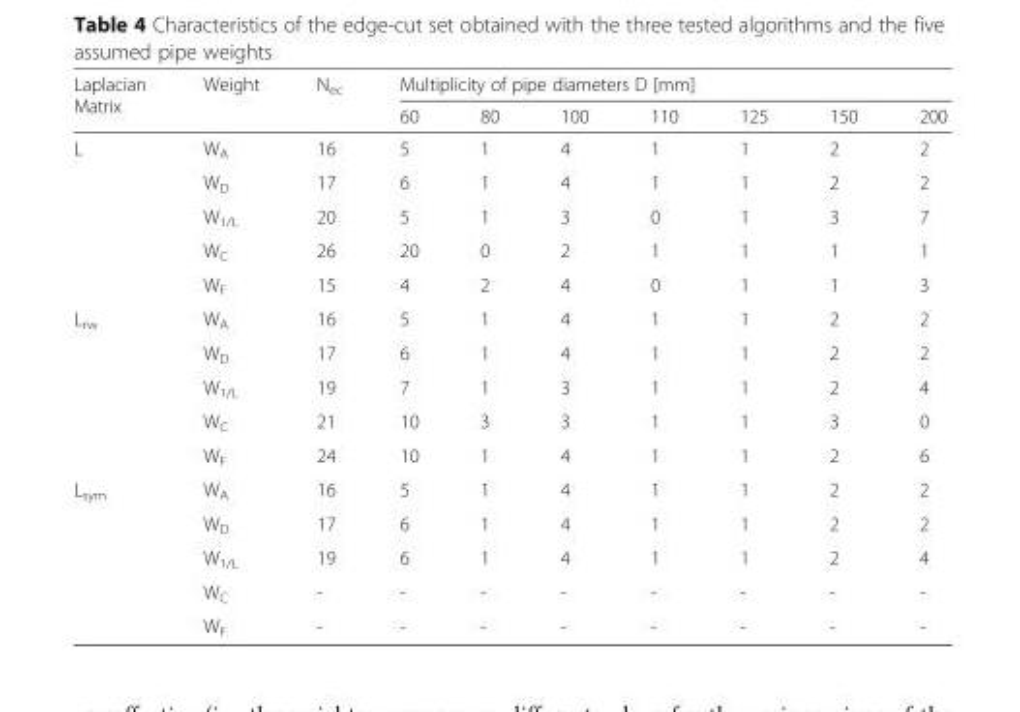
<table><thead><tr><td rowspan="2">Laplacian Matrix</td><td rowspan="2">Weight</td><td rowspan="2">N<sub>ec</sub></td><td colspan="7">Multiplicity of pipe diameters D [mm]</td></tr><tr><td>60</td><td>80</td><td>100</td><td>110</td><td>125</td><td>150</td><td>200</td></tr></thead><tbody><tr><td rowspan="5">L</td><td>W<sub>A</sub></td><td>16</td><td>5</td><td>1</td><td>4</td><td>1</td><td>1</td><td>2</td><td>2</td></tr><tr><td>W<sub>D</sub></td><td>17</td><td>6</td><td>1</td><td>4</td><td>1</td><td>1</td><td>2</td><td>2</td></tr><tr><td>W<sub>1/L</sub></td><td>20</td><td>5</td><td>1</td><td>3</td><td>0</td><td>1</td><td>3</td><td>7</td></tr><tr><td>W<sub>C</sub></td><td>26</td><td>20</td><td>0</td><td>2</td><td>1</td><td>1</td><td>1</td><td>1</td></tr><tr><td>W<sub>F</sub></td><td>15</td><td>4</td><td>2</td><td>4</td><td>0</td><td>1</td><td>1</td><td>3</td></tr><tr><td rowspan="5">L<sub>rw</sub></td><td>W<sub>A</sub></td><td>16</td><td>5</td><td>1</td><td>4</td><td>1</td><td>1</td><td>2</td><td>2</td></tr><tr><td>W<sub>D</sub></td><td>17</td><td>6</td><td>1</td><td>4</td><td>1</td><td>1</td><td>2</td><td>2</td></tr><tr><td>W<sub>1/L</sub></td><td>19</td><td>7</td><td>1</td><td>3</td><td>1</td><td>1</td><td>2</td><td>4</td></tr><tr><td>W<sub>C</sub></td><td>21</td><td>10</td><td>3</td><td>3</td><td>1</td><td>1</td><td>3</td><td>0</td></tr><tr><td>W<sub>F</sub></td><td>24</td><td>10</td><td>1</td><td>4</td><td>1</td><td>1</td><td>2</td><td>6</td></tr><tr><td rowspan="5">L<sub>sym</sub></td><td>W<sub>A</sub></td><td>16</td><td>5</td><td>1</td><td>4</td><td>1</td><td>1</td><td>2</td><td>2</td></tr><tr><td>W<sub>D</sub></td><td>17</td><td>6</td><td>1</td><td>4</td><td>1</td><td>1</td><td>2</td><td>2</td></tr><tr><td>W<sub>1/L</sub></td><td>19</td><td>6</td><td>1</td><td>4</td><td>1</td><td>1</td><td>2</td><td>4</td></tr><tr><td>W<sub>C</sub></td><td>-</td><td>-</td><td>-</td><td>-</td><td>-</td><td>-</td><td>-</td><td>-</td></tr><tr><td>W<sub>F</sub></td><td>-</td><td>-</td><td>-</td><td>-</td><td>-</td><td>-</td><td>-</td><td>-</td></tr></tbody></table>